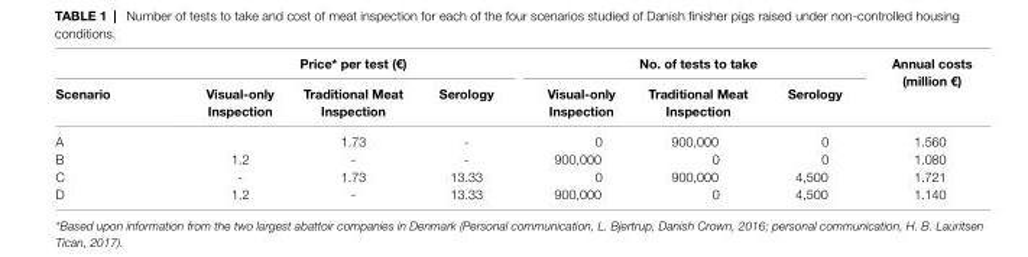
<table><thead><tr><td rowspan="2">scenario</td><td colspan="3">Price* per test (€)</td><td colspan="3">no. of tests to take</td><td rowspan="2">annual costs (million €)</td></tr><tr><td>Visual-only inspection</td><td>traditional Meat inspection</td><td>serology</td><td>Visual-only inspection</td><td>traditional Meat inspection</td><td>serology</td></tr></thead><tbody><tr><td>A</td><td></td><td>1.73</td><td>-</td><td>0</td><td>900,000</td><td>0</td><td>1.560</td></tr><tr><td>B</td><td>1.2</td><td>-</td><td>-</td><td>900,000</td><td>0</td><td>0</td><td>1.080</td></tr><tr><td>C</td><td>-</td><td>1.73</td><td>13.33</td><td>0</td><td>900,000</td><td>4,500</td><td>1.721</td></tr><tr><td>D</td><td>1.2</td><td>-</td><td>13.33</td><td>900,000</td><td>0</td><td>4,500</td><td>1.140</td></tr></tbody></table>